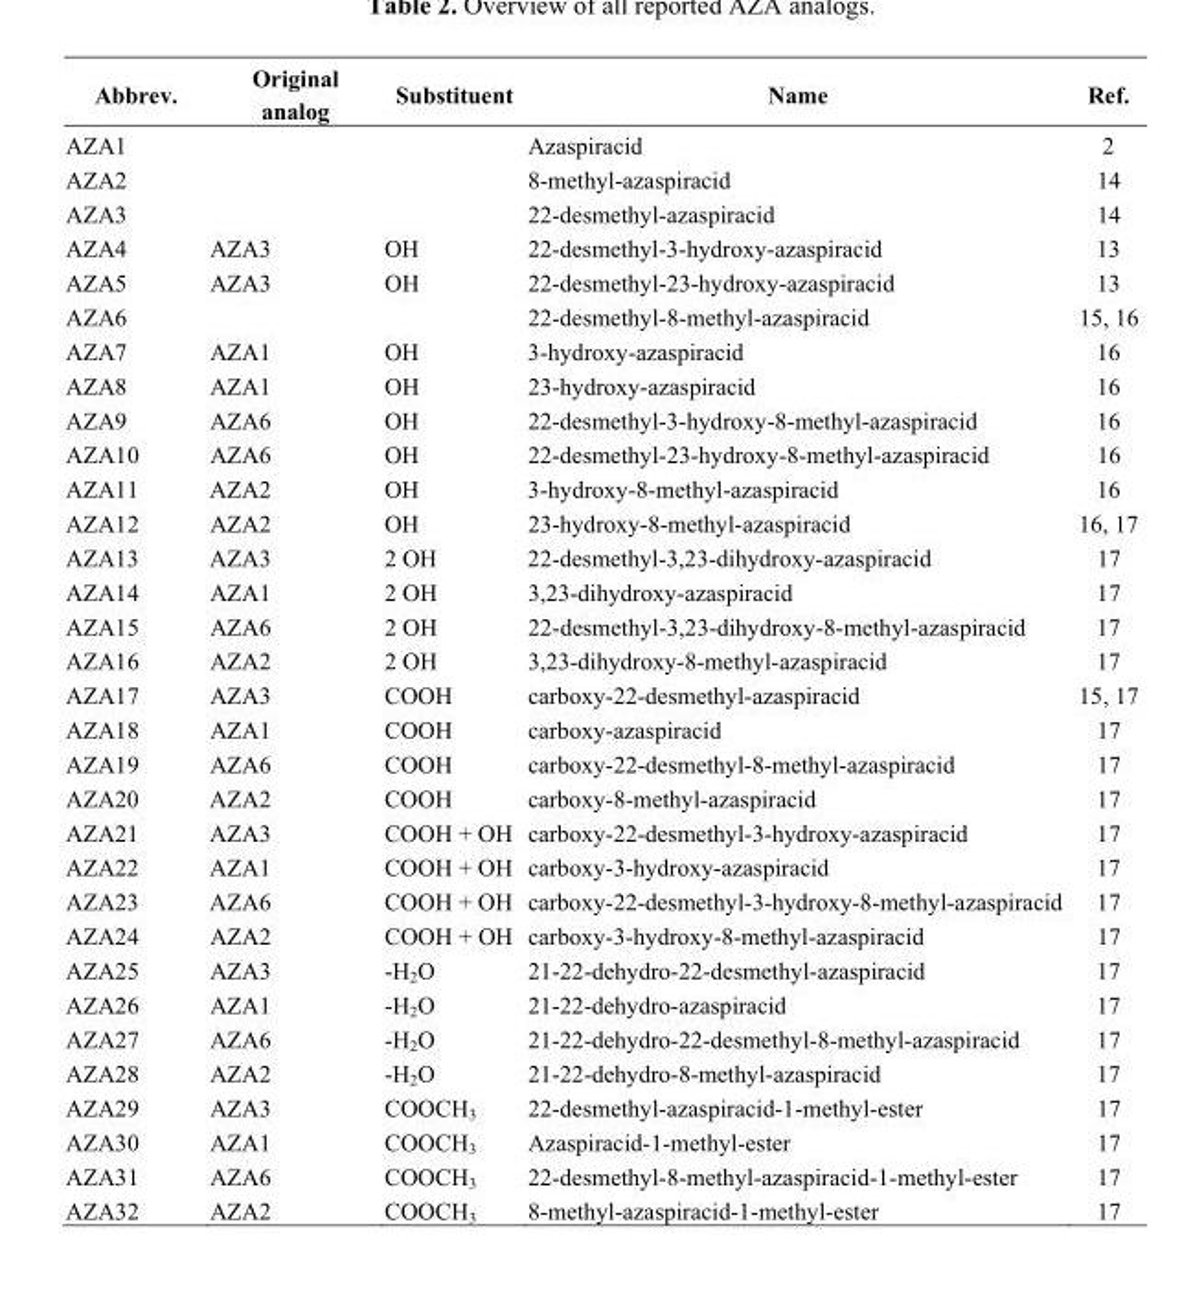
<table><thead><tr><td>Abbrev.</td><td>Original analog</td><td>Substituent</td><td>Name</td><td>Ref.</td></tr></thead><tbody><tr><td>AZA1</td><td></td><td></td><td>Azaspiracid</td><td>2</td></tr><tr><td>AZA2</td><td></td><td></td><td>8-methyl-azaspiracid</td><td>14</td></tr><tr><td>AZA3</td><td></td><td></td><td>22-desmethyl-azaspiracid</td><td>14</td></tr><tr><td>AZA4</td><td>AZA3</td><td>OH</td><td>22-desmethyl-3-hydroxy-azaspiracid</td><td>13</td></tr><tr><td>AZA5</td><td>AZA3</td><td>OH</td><td>22-desmethyl-23-hydroxy-azaspiracid</td><td>13</td></tr><tr><td>AZA6</td><td></td><td></td><td>22-desmethyl-8-methyl-azaspiracid</td><td>15, 16</td></tr><tr><td>AZA7</td><td>AZA1</td><td>OH</td><td>3-hydroxy-azaspiracid</td><td>16</td></tr><tr><td>AZA8</td><td>AZA1</td><td>OH</td><td>23-hydroxy-azaspiracid</td><td>16</td></tr><tr><td>AZA9</td><td>AZA6</td><td>OH</td><td>22-desmethyl-3-hydroxy-8-methyl-azaspiracid</td><td>16</td></tr><tr><td>AZA10</td><td>AZA6</td><td>OH</td><td>22-desmethyl-23-hydroxy-8-methyl-azaspiracid</td><td>16</td></tr><tr><td>AZA11</td><td>AZA2</td><td>OH</td><td>3-hydroxy-8-methyl-azaspiracid</td><td>16</td></tr><tr><td>AZA12</td><td>AZA2</td><td>OH</td><td>23-hydroxy-8-methyl-azaspiracid</td><td>16, 17</td></tr><tr><td>AZA13</td><td>AZA3</td><td>2 OH</td><td>22-desmethyl-3,23-dihydroxy-azaspiracid</td><td>17</td></tr><tr><td>AZA14</td><td>AZA1</td><td>2 OH</td><td>3,23-dihydroxy-azaspiracid</td><td>17</td></tr><tr><td>AZA15</td><td>AZA6</td><td>2 OH</td><td>22-desmethyl-3,23-dihydroxy-8-methyl-azaspiracid</td><td>17</td></tr><tr><td>AZA16</td><td>AZA2</td><td>2 OH</td><td>3,23-dihydroxy-8-methyl-azaspiracid</td><td>17</td></tr><tr><td>AZA17</td><td>AZA3</td><td>COOH</td><td>carboxy-22-desmethyl-azaspiracid</td><td>15, 17</td></tr><tr><td>AZA18</td><td>AZA1</td><td>COOH</td><td>carboxy-azaspiracid</td><td>17</td></tr><tr><td>AZA19</td><td>AZA6</td><td>COOH</td><td>carboxy-22-desmethyl-8-methyl-azaspiracid</td><td>17</td></tr><tr><td>AZA20</td><td>AZA2</td><td>COOH</td><td>carboxy-8-methyl-azaspiracid</td><td>17</td></tr><tr><td>AZA21</td><td>AZA3</td><td>COOH + OH</td><td>carboxy-22-desmethyl-3-hydroxy-azaspiracid</td><td>17</td></tr><tr><td>AZA22</td><td>AZA1</td><td>COOH + OH</td><td>carboxy-3-hydroxy-azaspiracid</td><td>17</td></tr><tr><td>AZA23</td><td>AZA6</td><td>COOH + OH</td><td>carboxy-22-desmethyl-3-hydroxy-8-methyl-azaspiracid</td><td>17</td></tr><tr><td>AZA24</td><td>AZA2</td><td>COOH + OH</td><td>carboxy-3-hydroxy-8-methyl-azaspiracid</td><td>17</td></tr><tr><td>AZA25</td><td>AZA3</td><td>-H<sub>2</sub>O</td><td>21-22-dehydro-22-desmethyl-azaspiracid</td><td>17</td></tr><tr><td>AZA26</td><td>AZA1</td><td>-H<sub>2</sub>O</td><td>21-22-dehydro-azaspiracid</td><td>17</td></tr><tr><td>AZA27</td><td>AZA6</td><td>-H<sub>2</sub>O</td><td>21-22-dehydro-22-desmethyl-8-methyl-azaspiracid</td><td>17</td></tr><tr><td>AZA28</td><td>AZA2</td><td>-H<sub>2</sub>O</td><td>21-22-dehydro-8-methyl-azaspiracid</td><td>17</td></tr><tr><td>AZA29</td><td>AZA3</td><td>COOCH<sub>3</sub></td><td>22-desmethyl-azaspiracid-1-methyl-ester</td><td>17</td></tr><tr><td>AZA30</td><td>AZA1</td><td>COOCH<sub>3</sub></td><td>Azaspiracid-1-methyl-ester</td><td>17</td></tr><tr><td>AZA31</td><td>AZA6</td><td>COOCH<sub>3</sub></td><td>22-desmethyl-8-methyl-azaspiracid-1-methyl-ester</td><td>17</td></tr><tr><td>AZA32</td><td>AZA2</td><td>COOCH<sub>3</sub></td><td>8-methyl-azaspiracid-1-methyl-ester</td><td>17</td></tr></tbody></table>